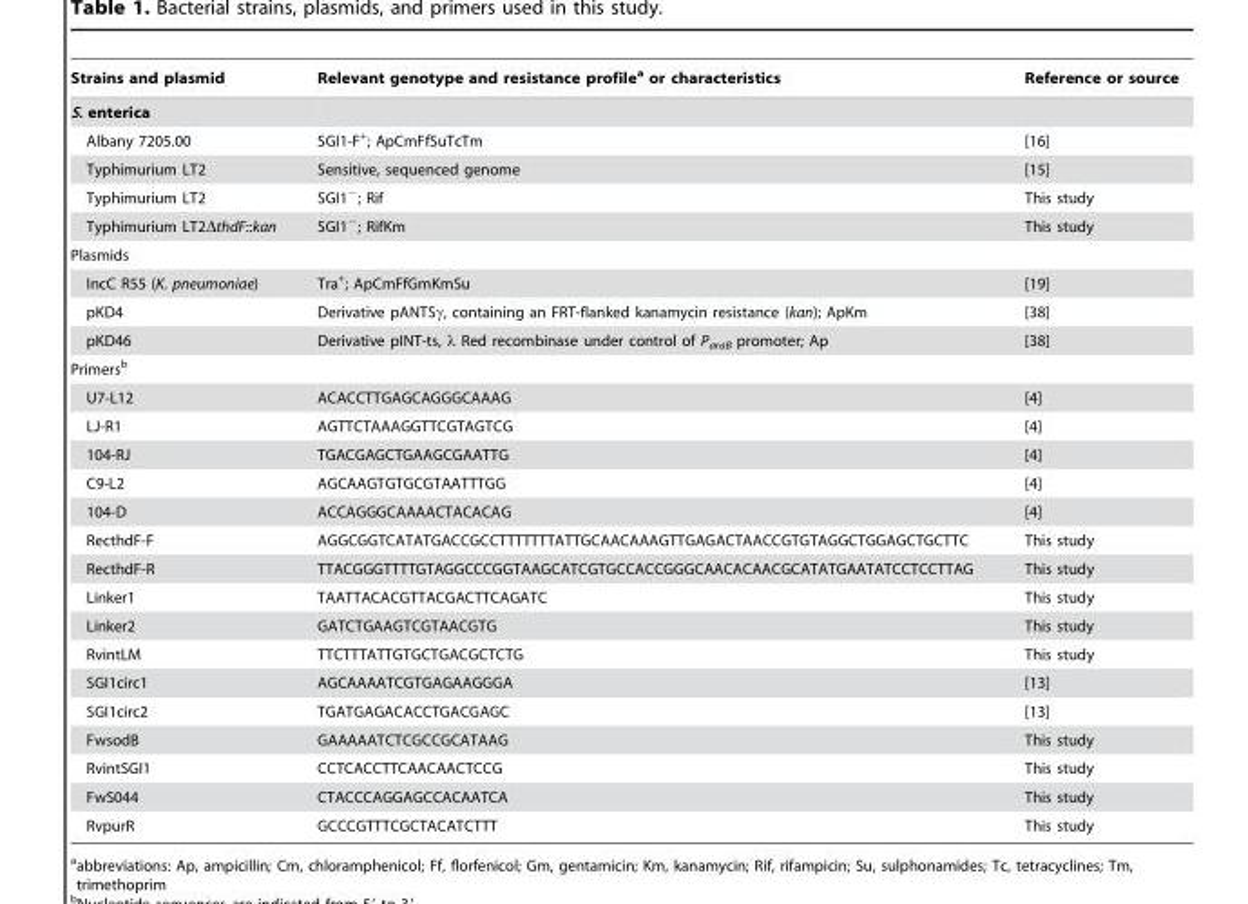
<table><thead><tr><td>Strains and plasmid</td><td>Relevant genotype and resistance profile<sup>a</sup> or characteristics</td><td>Reference or source</td></tr></thead><tbody><tr><td colspan="3">S. enterica</td></tr><tr><td>Albany 7205.00</td><td>SGI1-F<sup>+</sup>; ApCmFfSuTcTm</td><td>[16]</td></tr><tr><td>Typhimurium LT2</td><td>Sensitive, sequenced genome</td><td>[15]</td></tr><tr><td>Typhimurium LT2</td><td>SGI1<sup>−</sup>; Rif</td><td>This study</td></tr><tr><td>Typhimurium LT2ΔthdF::kan</td><td>SGI1<sup>−</sup>; RifKm</td><td>This study</td></tr><tr><td colspan="3">Plasmids</td></tr><tr><td>IncC R55 (K. pneumoniae)</td><td>Tra<sup>+</sup>; ApCmFfGmKmSu</td><td>[19]</td></tr><tr><td>pKD4</td><td>Derivative pANTSγ, containing an FRT-flanked kanamycin resistance (kan); ApKm</td><td>[38]</td></tr><tr><td>pKD46</td><td>Derivative pINT-ts, λ Red recombinase under control of P<sub>araB</sub> promoter; Ap</td><td>[38]</td></tr><tr><td colspan="3">Primers<sup>b</sup></td></tr><tr><td>U7-L12</td><td>ACACCTTGAGCAGGGCAAAG</td><td>[4]</td></tr><tr><td>LJ-R1</td><td>AGTTCTAAAGGTTCGTAGTCG</td><td>[4]</td></tr><tr><td>104-RJ</td><td>TGACGAGCTGAAGCGAATTG</td><td>[4]</td></tr><tr><td>C9-L2</td><td>AGCAAGTGTGCGTAATTTGG</td><td>[4]</td></tr><tr><td>104-D</td><td>ACCAGGGCAAAACTACACAG</td><td>[4]</td></tr><tr><td>RecthdF-F</td><td>AGGCGGTCATATGACCGCCTTTTTTTATTGCAACAAAGTTGAGACTAACCGTGTAGGCTGGAGCTGCTTC</td><td>This study</td></tr><tr><td>RecthdF-R</td><td>TTACGGGTTTTGTAGGCCCGGTAAGCATCGTGCCACCGGGCAACACAACGCATATGAATATCCTCCTTAG</td><td>This study</td></tr><tr><td>Linker1</td><td>TAATTACACGTTACGACTTCAGATC</td><td>This study</td></tr><tr><td>Linker2</td><td>GATCTGAAGTCGTAACGTG</td><td>This study</td></tr><tr><td>RvintLM</td><td>TTCTTTATTGTGCTGACGCTCTG</td><td>This study</td></tr><tr><td>SGI1circ1</td><td>AGCAAAATCGTGAGAAGGGA</td><td>[13]</td></tr><tr><td>SGI1circ2</td><td>TGATGAGACACCTGACGAGC</td><td>[13]</td></tr><tr><td>FwsodB</td><td>GAAAAATCTCGCCGCATAAG</td><td>This study</td></tr><tr><td>RvintSGI1</td><td>CCTCACCTTCAACAACTCCG</td><td>This study</td></tr><tr><td>FwS044</td><td>CTACCCAGGAGCCACAATCA</td><td>This study</td></tr><tr><td>RvpurR</td><td>GCCCGTTTCGCTACATCTTT</td><td>This study</td></tr></tbody></table>